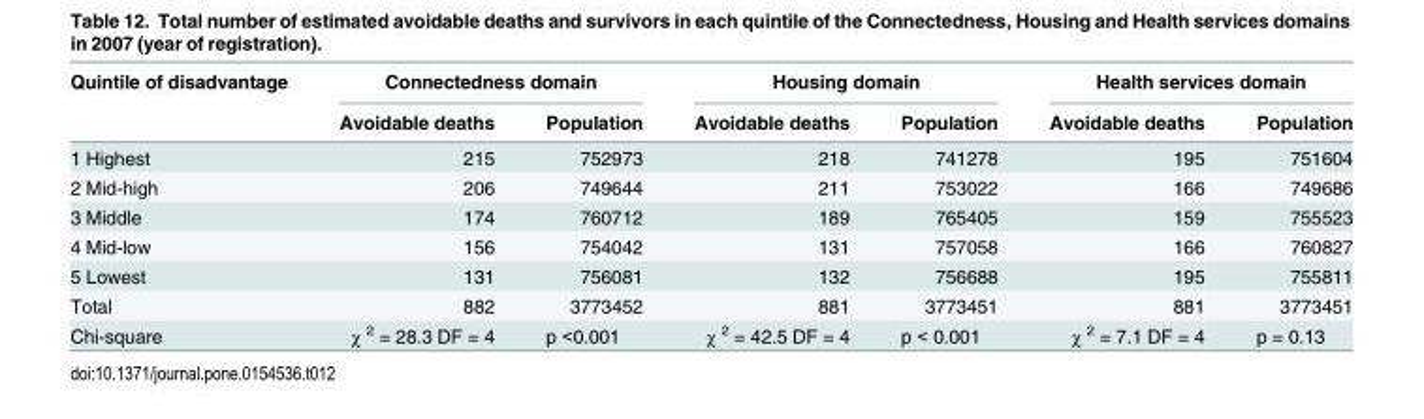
<table><thead><tr><td rowspan="2">Quintile of disadvantage</td><td colspan="2">Connectedness domain</td><td colspan="2">Housing domain</td><td colspan="2">Health services domain</td></tr><tr><td>Avoidable deaths</td><td>Population</td><td>Avoidable deaths</td><td>Population</td><td>Avoidable deaths</td><td>Population</td></tr></thead><tbody><tr><td>1 Highest</td><td>215</td><td>752973</td><td>218</td><td>741278</td><td>195</td><td>751604</td></tr><tr><td>2 Mid-high</td><td>206</td><td>749644</td><td>211</td><td>753022</td><td>166</td><td>749686</td></tr><tr><td>3 Middle</td><td>174</td><td>760712</td><td>189</td><td>765405</td><td>159</td><td>755523</td></tr><tr><td>4 Mid-low</td><td>156</td><td>754042</td><td>131</td><td>757058</td><td>166</td><td>760827</td></tr><tr><td>5 Lowest</td><td>131</td><td>756081</td><td>132</td><td>756688</td><td>195</td><td>755811</td></tr><tr><td>Total</td><td>882</td><td>3773452</td><td>881</td><td>3773451</td><td>881</td><td>3773451</td></tr><tr><td>Chi-square</td><td>χ <sup>2</sup> = 28.3 DF = 4</td><td>p &lt;0.001</td><td>χ <sup>2</sup> = 42.5 DF = 4</td><td>p &lt; 0.001</td><td>χ <sup>2</sup> = 7.1 DF = 4</td><td>p = 0.13</td></tr></tbody></table>